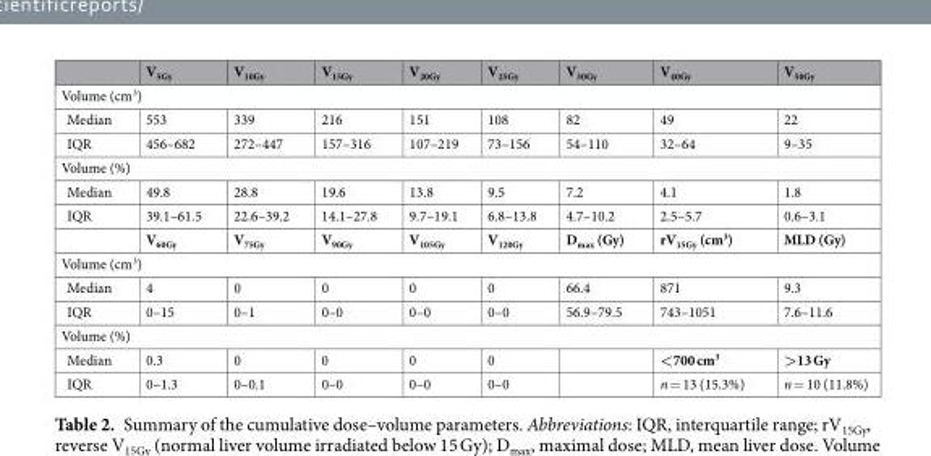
<table><thead><tr><td></td><td>V<sub>5Gy</sub></td><td>V<sub>10Gy</sub></td><td>V<sub>15Gy</sub></td><td>V<sub>20Gy</sub></td><td>V<sub>25Gy</sub></td><td>V<sub>30Gy</sub></td><td>V<sub>40Gy</sub></td><td>V<sub>50Gy</sub></td></tr></thead><tbody><tr><td colspan="9">Volume (cm<sup>3</sup>)</td></tr><tr><td>Median</td><td>553</td><td>339</td><td>216</td><td>151</td><td>108</td><td>82</td><td>49</td><td>22</td></tr><tr><td>IQR</td><td>456–682</td><td>272–447</td><td>157–316</td><td>107–219</td><td>73–156</td><td>54–110</td><td>32–64</td><td>9–35</td></tr><tr><td colspan="9">Volume (%)</td></tr><tr><td>Median</td><td>49.8</td><td>28.8</td><td>19.6</td><td>13.8</td><td>9.5</td><td>7.2</td><td>4.1</td><td>1.8</td></tr><tr><td rowspan="2">IQR</td><td>39.1–61.5</td><td>22.6–39.2</td><td>14.1–27.8</td><td>9.7–19.1</td><td>6.8–13.8</td><td>4.7–10.2</td><td>2.5–5.7</td><td>0.6–3.1</td></tr><tr><td>V<sub>60Gy</sub></td><td>V<sub>75Gy</sub></td><td>V<sub>90Gy</sub></td><td>V<sub>105Gy</sub></td><td>V<sub>120Gy</sub></td><td>D<sub>max</sub> (Gy)</td><td>rV<sub>15Gy</sub> (cm<sup>3</sup>)</td><td>MLD (Gy)</td></tr><tr><td colspan="9">Volume (cm<sup>3</sup>)</td></tr><tr><td>Median</td><td>4</td><td>0</td><td>0</td><td>0</td><td>0</td><td>66.4</td><td>871</td><td>9.3</td></tr><tr><td>IQR</td><td>0–15</td><td>0–1</td><td>0–0</td><td>0–0</td><td>0–0</td><td>56.9–79.5</td><td>743–1051</td><td>7.6–11.6</td></tr><tr><td colspan="9">Volume (%)</td></tr><tr><td>Median</td><td>0.3</td><td>0</td><td>0</td><td>0</td><td>0</td><td></td><td>&lt;700 cm<sup>3</sup></td><td>&gt;13 Gy</td></tr><tr><td>IQR</td><td>0–1.3</td><td>0–0.1</td><td>0–0</td><td>0–0</td><td>0–0</td><td></td><td>n = 13 (15.3%)</td><td>n = 10 (11.8%)</td></tr></tbody></table>